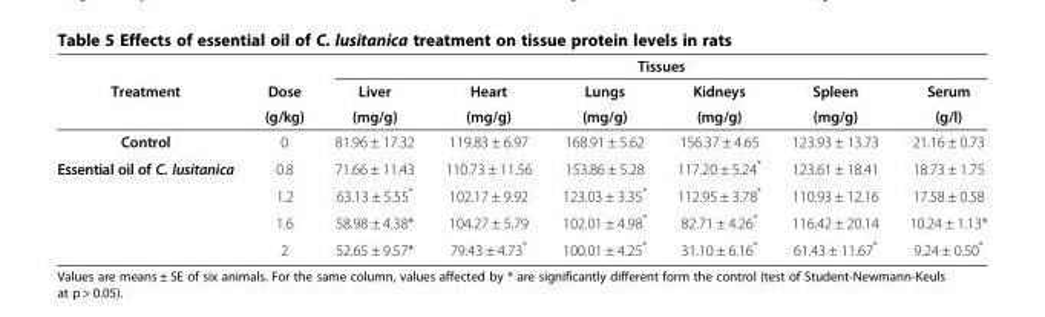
<table><thead><tr><td rowspan="3">Treatment</td><td rowspan="3">Dose (g/kg)</td><td colspan="6">Tissues</td></tr><tr><td rowspan="2">Liver (mg/g)</td><td rowspan="2">Heart (mg/g)</td><td rowspan="2">Lungs (mg/g)</td><td rowspan="2">Kidneys (mg/g)</td><td rowspan="2">Spleen (mg/g)</td><td rowspan="2">Serum (g/l)</td></tr><tr></tr></thead><tbody><tr><td>Control</td><td>0</td><td>81.96 ± 17.32</td><td>119.83 ± 6.97</td><td>168.91 ± 5.62</td><td>156.37 ± 4.65</td><td>123.93 ± 13.73</td><td>21.16 ± 0.73</td></tr><tr><td rowspan="4">Essential oil of C. lusitanica</td><td>0.8</td><td>71.66 ± 11.43</td><td>110.73 ± 11.56</td><td>153.86 ± 5.28</td><td>117.20 ± 5.24*</td><td>123.61 ± 18.41</td><td>18.73 ± 1.75</td></tr><tr><td>1.2</td><td>63.13 ± 5.55*</td><td>102.17 ± 9.92</td><td>123.03 ± 3.35*</td><td>112.95 ± 3.78*</td><td>110.93 ± 12.16</td><td>17.58 ± 0.58</td></tr><tr><td>1.6</td><td>58.98 ± 4.38*</td><td>104.27 ± 5.79</td><td>102.01 ± 4.98*</td><td>82.71 ± 4.26*</td><td>116.42 ± 20.14</td><td>10.24 ± 1.13*</td></tr><tr><td>2</td><td>52.65 ± 9.57*</td><td>79.43 ± 4.73*</td><td>100.01 ± 4.25*</td><td>31.10 ± 6.16*</td><td>61.43 ± 11.67*</td><td>9.24 ± 0.50*</td></tr></tbody></table>